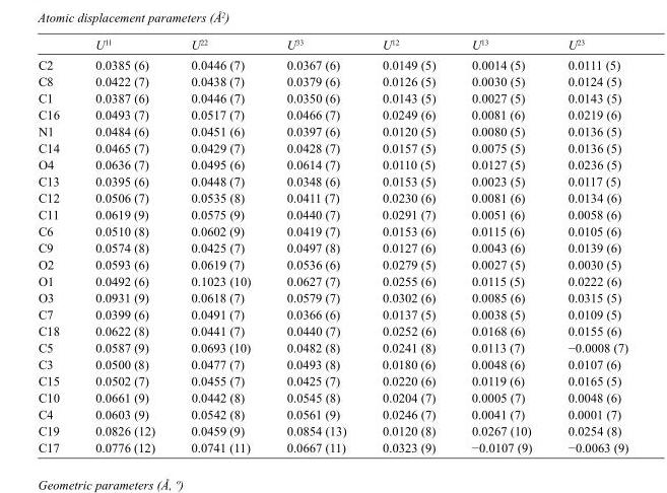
<table><thead><tr><td></td><td>U<sup>11</sup></td><td>U<sup>22</sup></td><td>U<sup>33</sup></td><td>U<sup>12</sup></td><td>U<sup>13</sup></td><td>U<sup>23</sup></td></tr></thead><tbody><tr><td>C2</td><td>0.0385 (6)</td><td>0.0446 (7)</td><td>0.0367 (6)</td><td>0.0149 (5)</td><td>0.0014 (5)</td><td>0.0111 (5)</td></tr><tr><td>C8</td><td>0.0422 (7)</td><td>0.0438 (7)</td><td>0.0379 (6)</td><td>0.0126 (5)</td><td>0.0030 (5)</td><td>0.0124 (5)</td></tr><tr><td>C1</td><td>0.0387 (6)</td><td>0.0446 (7)</td><td>0.0350 (6)</td><td>0.0143 (5)</td><td>0.0027 (5)</td><td>0.0143 (5)</td></tr><tr><td>C16</td><td>0.0493 (7)</td><td>0.0517 (7)</td><td>0.0466 (7)</td><td>0.0249 (6)</td><td>0.0081 (6)</td><td>0.0219 (6)</td></tr><tr><td>N1</td><td>0.0484 (6)</td><td>0.0451 (6)</td><td>0.0397 (6)</td><td>0.0120 (5)</td><td>0.0080 (5)</td><td>0.0136 (5)</td></tr><tr><td>C14</td><td>0.0465 (7)</td><td>0.0429 (7)</td><td>0.0428 (7)</td><td>0.0157 (5)</td><td>0.0075 (5)</td><td>0.0136 (5)</td></tr><tr><td>O4</td><td>0.0636 (7)</td><td>0.0495 (6)</td><td>0.0614 (7)</td><td>0.0110 (5)</td><td>0.0127 (5)</td><td>0.0236 (5)</td></tr><tr><td>C13</td><td>0.0395 (6)</td><td>0.0448 (7)</td><td>0.0348 (6)</td><td>0.0153 (5)</td><td>0.0023 (5)</td><td>0.0117 (5)</td></tr><tr><td>C12</td><td>0.0506 (7)</td><td>0.0535 (8)</td><td>0.0411 (7)</td><td>0.0230 (6)</td><td>0.0081 (6)</td><td>0.0134 (6)</td></tr><tr><td>C11</td><td>0.0619 (9)</td><td>0.0575 (9)</td><td>0.0440 (7)</td><td>0.0291 (7)</td><td>0.0051 (6)</td><td>0.0058 (6)</td></tr><tr><td>C6</td><td>0.0510 (8)</td><td>0.0602 (9)</td><td>0.0419 (7)</td><td>0.0153 (6)</td><td>0.0115 (6)</td><td>0.0105 (6)</td></tr><tr><td>C9</td><td>0.0574 (8)</td><td>0.0425 (7)</td><td>0.0497 (8)</td><td>0.0127 (6)</td><td>0.0043 (6)</td><td>0.0139 (6)</td></tr><tr><td>O2</td><td>0.0593 (6)</td><td>0.0619 (7)</td><td>0.0536 (6)</td><td>0.0279 (5)</td><td>0.0027 (5)</td><td>0.0030 (5)</td></tr><tr><td>O1</td><td>0.0492 (6)</td><td>0.1023 (10)</td><td>0.0627 (7)</td><td>0.0255 (6)</td><td>0.0115 (5)</td><td>0.0222 (6)</td></tr><tr><td>O3</td><td>0.0931 (9)</td><td>0.0618 (7)</td><td>0.0579 (7)</td><td>0.0302 (6)</td><td>0.0085 (6)</td><td>0.0315 (5)</td></tr><tr><td>C7</td><td>0.0399 (6)</td><td>0.0491 (7)</td><td>0.0366 (6)</td><td>0.0137 (5)</td><td>0.0038 (5)</td><td>0.0109 (5)</td></tr><tr><td>C18</td><td>0.0622 (8)</td><td>0.0441 (7)</td><td>0.0440 (7)</td><td>0.0252 (6)</td><td>0.0168 (6)</td><td>0.0155 (6)</td></tr><tr><td>C5</td><td>0.0587 (9)</td><td>0.0693 (10)</td><td>0.0482 (8)</td><td>0.0241 (8)</td><td>0.0113 (7)</td><td>−0.0008 (7)</td></tr><tr><td>C3</td><td>0.0500 (8)</td><td>0.0477 (7)</td><td>0.0493 (8)</td><td>0.0180 (6)</td><td>0.0048 (6)</td><td>0.0107 (6)</td></tr><tr><td>C15</td><td>0.0502 (7)</td><td>0.0455 (7)</td><td>0.0425 (7)</td><td>0.0220 (6)</td><td>0.0119 (6)</td><td>0.0165 (5)</td></tr><tr><td>C10</td><td>0.0661 (9)</td><td>0.0442 (8)</td><td>0.0545 (8)</td><td>0.0204 (7)</td><td>0.0005 (7)</td><td>0.0048 (6)</td></tr><tr><td>C4</td><td>0.0603 (9)</td><td>0.0542 (8)</td><td>0.0561 (9)</td><td>0.0246 (7)</td><td>0.0041 (7)</td><td>0.0001 (7)</td></tr><tr><td>C19</td><td>0.0826 (12)</td><td>0.0459 (9)</td><td>0.0854 (13)</td><td>0.0120 (8)</td><td>0.0267 (10)</td><td>0.0254 (8)</td></tr><tr><td>C17</td><td>0.0776 (12)</td><td>0.0741 (11)</td><td>0.0667 (11)</td><td>0.0323 (9)</td><td>−0.0107 (9)</td><td>−0.0063 (9)</td></tr></tbody></table>